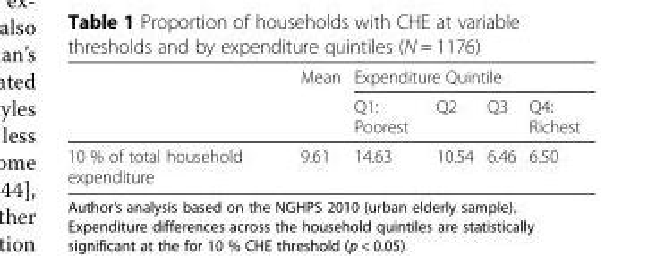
<table><thead><tr><td rowspan="2"></td><td rowspan="2">Mean</td><td colspan="4">Expenditure Quintile</td></tr><tr><td>Q1: Poorest</td><td>Q2</td><td>Q3</td><td>Q4: Richest</td></tr></thead><tbody><tr><td>10 % of total household expenditure</td><td>9.61</td><td>14.63</td><td>10.54</td><td>6.46</td><td>6.50</td></tr></tbody></table>